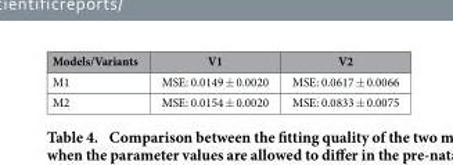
<table><thead><tr><td>Models/Variants</td><td>V1</td><td>V2</td></tr></thead><tbody><tr><td>M1</td><td>MSE: 0.0149 ± 0.0020</td><td>MSE: 0.0617 ± 0.0066</td></tr><tr><td>M2</td><td>MSE: 0.0154 ± 0.0020</td><td>MSE: 0.0833 ± 0.0075</td></tr></tbody></table>